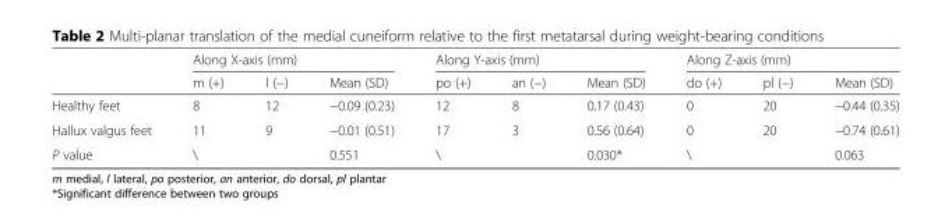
<table><thead><tr><td rowspan="2"></td><td colspan="3">Along X-axis (mm)</td><td colspan="3">Along Y-axis (mm)</td><td colspan="3">Along Z-axis (mm)</td></tr><tr><td>m (+)</td><td>l (−)</td><td>Mean (SD)</td><td>po (+)</td><td>an (−)</td><td>Mean (SD)</td><td>do (+)</td><td>pl (−)</td><td>Mean (SD)</td></tr></thead><tbody><tr><td>Healthy feet</td><td>8</td><td>12</td><td>−0.09 (0.23)</td><td>12</td><td>8</td><td>0.17 (0.43)</td><td>0</td><td>20</td><td>−0.44 (0.35)</td></tr><tr><td>Hallux valgus feet</td><td>11</td><td>9</td><td>−0.01 (0.51)</td><td>17</td><td>3</td><td>0.56 (0.64)</td><td>0</td><td>20</td><td>−0.74 (0.61)</td></tr><tr><td>P value</td><td colspan="2">\</td><td>0.551</td><td colspan="2">\</td><td>0.030*</td><td colspan="2">\</td><td>0.063</td></tr></tbody></table>